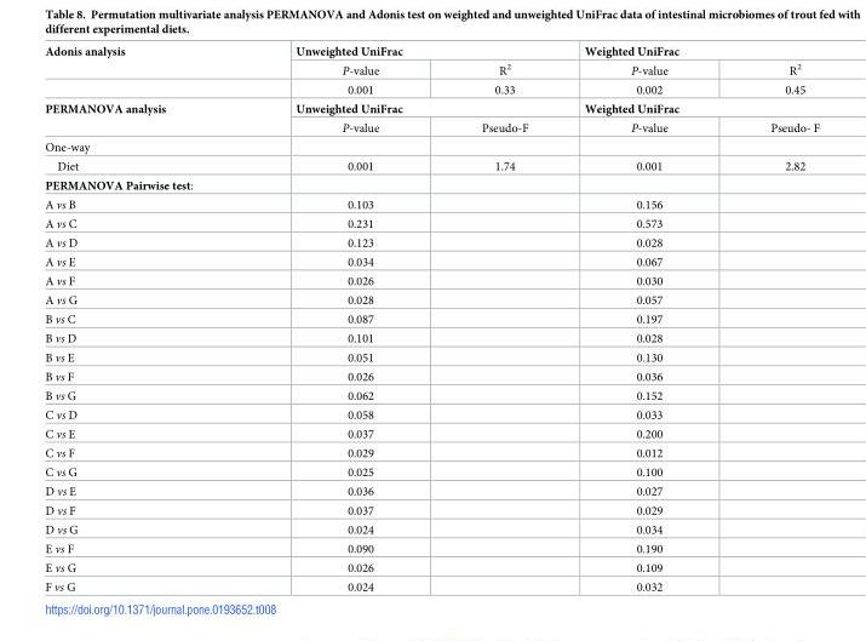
<table><tbody><tr><td rowspan="3">Adonis analysis</td><td colspan="2">Unweighted UniFrac</td><td colspan="2">Weighted UniFrac</td></tr><tr><td>P-value</td><td>R<sup>2</sup></td><td>P-value</td><td>R<sup>2</sup></td></tr><tr><td>0.001</td><td>0.33</td><td>0.002</td><td>0.45</td></tr><tr><td rowspan="2">PERMANOVA analysis</td><td colspan="2">Unweighted UniFrac</td><td colspan="2">Weighted UniFrac</td></tr><tr><td>P-value</td><td>Pseudo-F</td><td>P-value</td><td>Pseudo- F</td></tr><tr><td colspan="5">One-way</td></tr><tr><td>Diet</td><td>0.001</td><td>1.74</td><td>0.001</td><td>2.82</td></tr><tr><td colspan="5">PERMANOVA Pairwise test:</td></tr><tr><td>A vs B</td><td>0.103</td><td></td><td>0.156</td><td></td></tr><tr><td>A vs C</td><td>0.231</td><td></td><td>0.573</td><td></td></tr><tr><td>A vs D</td><td>0.123</td><td></td><td>0.028</td><td></td></tr><tr><td>A vs E</td><td>0.034</td><td></td><td>0.067</td><td></td></tr><tr><td>A vs F</td><td>0.026</td><td></td><td>0.030</td><td></td></tr><tr><td>A vs G</td><td>0.028</td><td></td><td>0.057</td><td></td></tr><tr><td>B vs C</td><td>0.087</td><td></td><td>0.197</td><td></td></tr><tr><td>B vs D</td><td>0.101</td><td></td><td>0.028</td><td></td></tr><tr><td>B vs E</td><td>0.051</td><td></td><td>0.130</td><td></td></tr><tr><td>B vs F</td><td>0.026</td><td></td><td>0.036</td><td></td></tr><tr><td>B vs G</td><td>0.062</td><td></td><td>0.152</td><td></td></tr><tr><td>C vs D</td><td>0.058</td><td></td><td>0.033</td><td></td></tr><tr><td>C vs E</td><td>0.037</td><td></td><td>0.200</td><td></td></tr><tr><td>C vs F</td><td>0.029</td><td></td><td>0.012</td><td></td></tr><tr><td>C vs G</td><td>0.025</td><td></td><td>0.100</td><td></td></tr><tr><td>D vs E</td><td>0.036</td><td></td><td>0.027</td><td></td></tr><tr><td>D vs F</td><td>0.037</td><td></td><td>0.029</td><td></td></tr><tr><td>D vs G</td><td>0.024</td><td></td><td>0.034</td><td></td></tr><tr><td>E vs F</td><td>0.090</td><td></td><td>0.190</td><td></td></tr><tr><td>E vs G</td><td>0.026</td><td></td><td>0.109</td><td></td></tr><tr><td>F vs G</td><td>0.024</td><td></td><td>0.032</td><td></td></tr></tbody></table>